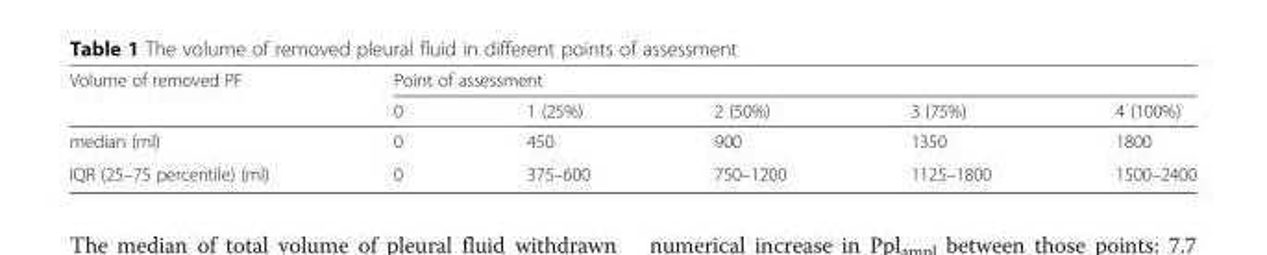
<table><thead><tr><td rowspan="2">Volume of removed PF</td><td colspan="5">Point of assessment</td></tr><tr><td>0</td><td>1 (25%)</td><td>2 (50%)</td><td>3 (75%)</td><td>4 (100%)</td></tr></thead><tbody><tr><td>median (ml)</td><td>0</td><td>450</td><td>900</td><td>1350</td><td>1800</td></tr><tr><td>IQR (25–75 percentile) (ml)</td><td>0</td><td>375–600</td><td>750–1200</td><td>1125–1800</td><td>1500–2400</td></tr></tbody></table>